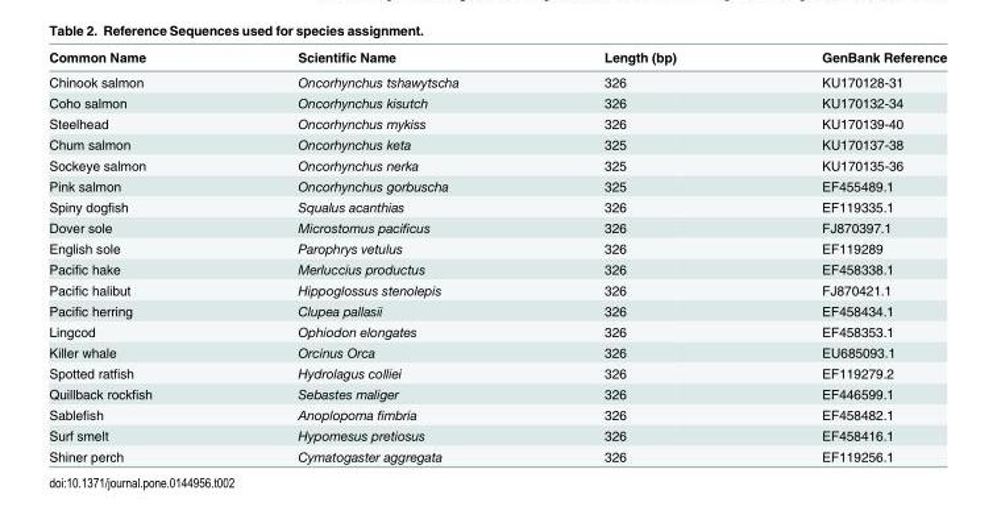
<table><thead><tr><td>Common Name</td><td>Scientific Name</td><td>Length (bp)</td><td>GenBank Reference</td></tr></thead><tbody><tr><td>Chinook salmon</td><td>Oncorhynchus tshawytscha</td><td>326</td><td>KU170128-31</td></tr><tr><td>Coho salmon</td><td>Oncorhynchus kisutch</td><td>326</td><td>KU170132-34</td></tr><tr><td>Steelhead</td><td>Oncorhynchus mykiss</td><td>326</td><td>KU170139-40</td></tr><tr><td>Chum salmon</td><td>Oncorhynchus keta</td><td>325</td><td>KU170137-38</td></tr><tr><td>Sockeye salmon</td><td>Oncorhynchus nerka</td><td>325</td><td>KU170135-36</td></tr><tr><td>Pink salmon</td><td>Oncorhynchus gorbuscha</td><td>325</td><td>EF455489.1</td></tr><tr><td>Spiny dogfish</td><td>Squalus acanthias</td><td>326</td><td>EF119335.1</td></tr><tr><td>Dover sole</td><td>Microstomus pacificus</td><td>326</td><td>FJ870397.1</td></tr><tr><td>English sole</td><td>Parophrys vetulus</td><td>326</td><td>EF119289</td></tr><tr><td>Pacific hake</td><td>Merluccius productus</td><td>326</td><td>EF458338.1</td></tr><tr><td>Pacific halibut</td><td>Hippoglossus stenolepis</td><td>326</td><td>FJ870421.1</td></tr><tr><td>Pacific herring</td><td>Clupea pallasii</td><td>326</td><td>EF458434.1</td></tr><tr><td>Lingcod</td><td>Ophiodon elongates</td><td>326</td><td>EF458353.1</td></tr><tr><td>Killer whale</td><td>Orcinus Orca</td><td>326</td><td>EU685093.1</td></tr><tr><td>Spotted ratfish</td><td>Hydrolagus colliei</td><td>326</td><td>EF119279.2</td></tr><tr><td>Quillback rockfish</td><td>Sebastes maliger</td><td>326</td><td>EF446599.1</td></tr><tr><td>Sablefish</td><td>Anoplopoma fimbria</td><td>326</td><td>EF458482.1</td></tr><tr><td>Surf smelt</td><td>Hypomesus pretiosus</td><td>326</td><td>EF458416.1</td></tr><tr><td>Shiner perch</td><td>Cymatogaster aggregata</td><td>326</td><td>EF119256.1</td></tr></tbody></table>